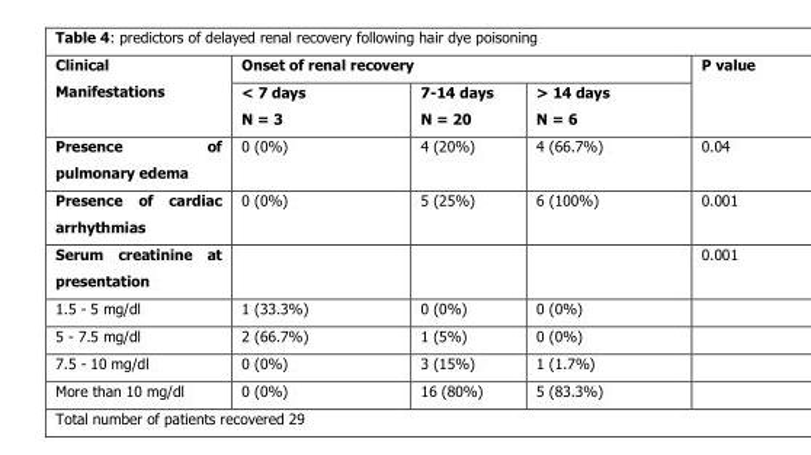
<table><thead><tr><td rowspan="2">Clinical Manifestations</td><td colspan="3">Onset of renal recovery</td><td rowspan="2">P value</td></tr><tr><td>&lt; 7 days N = 3</td><td>7-14 days N = 20</td><td>&gt; 14 days N = 6</td></tr></thead><tbody><tr><td>Presence of pulmonary edema</td><td>0 (0%)</td><td>4 (20%)</td><td>4 (66.7%)</td><td>0.04</td></tr><tr><td>Presence of cardiac arrhythmias</td><td>0 (0%)</td><td>5 (25%)</td><td>6 (100%)</td><td>0.001</td></tr><tr><td>Serum creatinine at presentation</td><td></td><td></td><td></td><td>0.001</td></tr><tr><td>1.5 - 5 mg/dl</td><td>1 (33.3%)</td><td>0 (0%)</td><td>0 (0%)</td><td></td></tr><tr><td>5 - 7.5 mg/dl</td><td>2 (66.7%)</td><td>1 (5%)</td><td>0 (0%)</td><td></td></tr><tr><td>7.5 - 10 mg/dl</td><td>0 (0%)</td><td>3 (15%)</td><td>1 (1.7%)</td><td></td></tr><tr><td>More than 10 mg/dl</td><td>0 (0%)</td><td>16 (80%)</td><td>5 (83.3%)</td><td></td></tr></tbody></table>